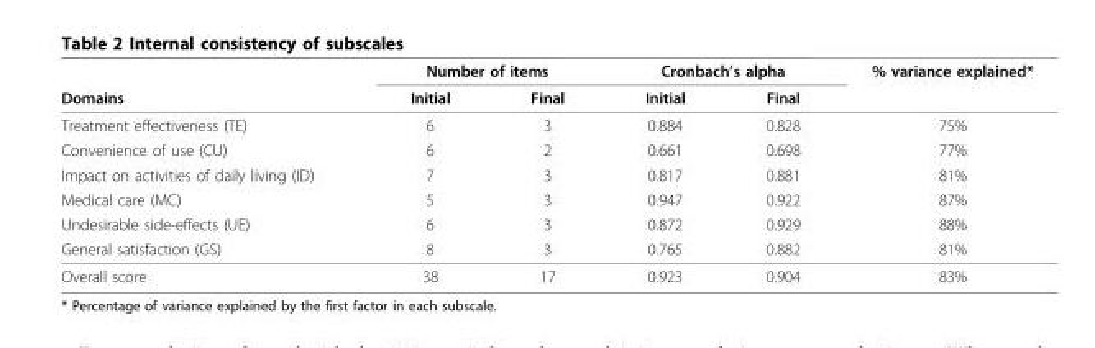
<table><thead><tr><td rowspan="2">Domains</td><td colspan="2">Number of items</td><td colspan="2">Cronbach’s alpha</td><td rowspan="2">% variance explained*</td></tr><tr><td>Initial</td><td>Final</td><td>Initial</td><td>Final</td></tr></thead><tbody><tr><td>Treatment effectiveness (TE)</td><td>6</td><td>3</td><td>0.884</td><td>0.828</td><td>75%</td></tr><tr><td>Convenience of use (CU)</td><td>6</td><td>2</td><td>0.661</td><td>0.698</td><td>77%</td></tr><tr><td>Impact on activities of daily living (ID)</td><td>7</td><td>3</td><td>0.817</td><td>0.881</td><td>81%</td></tr><tr><td>Medical care (MC)</td><td>5</td><td>3</td><td>0.947</td><td>0.922</td><td>87%</td></tr><tr><td>Undesirable side-effects (UE)</td><td>6</td><td>3</td><td>0.872</td><td>0.929</td><td>88%</td></tr><tr><td>General satisfaction (GS)</td><td>8</td><td>3</td><td>0.765</td><td>0.882</td><td>81%</td></tr><tr><td>Overall score</td><td>38</td><td>17</td><td>0.923</td><td>0.904</td><td>83%</td></tr></tbody></table>